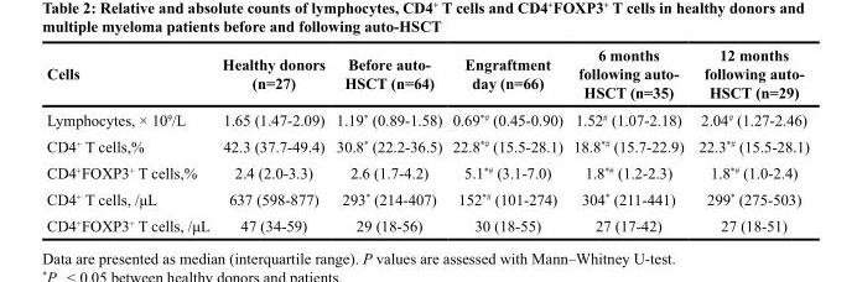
<table><thead><tr><td>Cells</td><td>Healthy donors (n=27)</td><td>Before auto- HSCT (n=64)</td><td>Engraftment day (n=66)</td><td>6 months following auto- HSCT (n=35)</td><td>12 months following auto- HSCT (n=29)</td></tr></thead><tbody><tr><td>Lymphocytes, × 10<sup>9</sup>/L</td><td>1.65 (1.47-2.09)</td><td>1.19* (0.89-1.58)</td><td>0.69<sup>*#</sup> (0.45-0.90)</td><td>1.52<sup>#</sup> (1.07-2.18)</td><td>2.04<sup>#</sup> (1.27-2.46)</td></tr><tr><td>CD4<sup>+</sup> T cells,%</td><td>42.3 (37.7-49.4)</td><td>30.8* (22.2-36.5)</td><td>22.8<sup>*#</sup> (15.5-28.1)</td><td>18.8<sup>*#</sup> (15.7-22.9)</td><td>22.3<sup>*#</sup> (15.5-28.1)</td></tr><tr><td>CD4<sup>+</sup>FOXP3<sup>+</sup> T cells,%</td><td>2.4 (2.0-3.3)</td><td>2.6 (1.7-4.2)</td><td>5.1<sup>*#</sup> (3.1-7.0)</td><td>1.8<sup>*#</sup> (1.2-2.3)</td><td>1.8<sup>*#</sup> (1.0-2.4)</td></tr><tr><td>CD4<sup>+</sup> T cells, /μL</td><td>637 (598-877)</td><td>293* (214-407)</td><td>152<sup>*#</sup> (101-274)</td><td>304* (211-441)</td><td>299* (275-503)</td></tr><tr><td>CD4<sup>+</sup>FOXP3<sup>+</sup> T cells, /μL</td><td>47 (34-59)</td><td>29 (18-56)</td><td>30 (18-55)</td><td>27 (17-42)</td><td>27 (18-51)</td></tr></tbody></table>